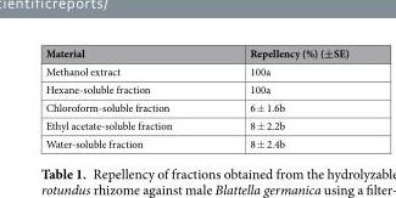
<table><thead><tr><td>Material</td><td>Repellency (%) (±SE)</td></tr></thead><tbody><tr><td>Methanol extract</td><td>100a</td></tr><tr><td>Hexane-soluble fraction</td><td>100a</td></tr><tr><td>Chloroform-soluble fraction</td><td>6 ± 1.6b</td></tr><tr><td>Ethyl acetate-soluble fraction</td><td>8 ± 2.2b</td></tr><tr><td>Water-soluble fraction</td><td>8 ± 2.4b</td></tr></tbody></table>